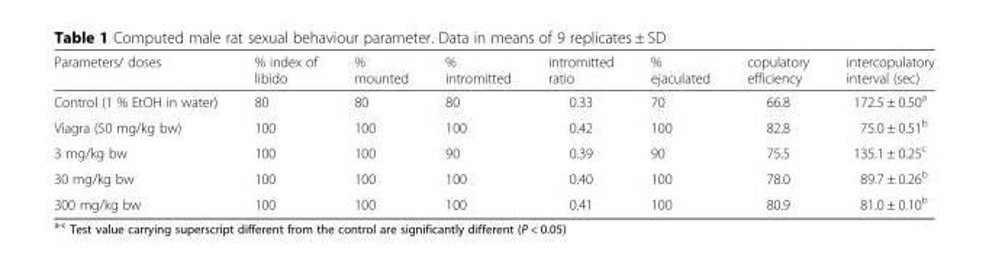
<table><thead><tr><td>Parameters/ doses</td><td>% index of libido</td><td>% mounted</td><td>% intromitted</td><td>intromitted ratio</td><td>% ejaculated</td><td>copulatory efficiency</td><td>intercopulatory interval (sec)</td></tr></thead><tbody><tr><td>Control (1 % EtOH in water)</td><td>80</td><td>80</td><td>80</td><td>0.33</td><td>70</td><td>66.8</td><td>172.5 ± 0.50<sup>a</sup></td></tr><tr><td>Viagra (50 mg/kg bw)</td><td>100</td><td>100</td><td>100</td><td>0.42</td><td>100</td><td>82.8</td><td>75.0 ± 0.51<sup>b</sup></td></tr><tr><td>3 mg/kg bw</td><td>100</td><td>100</td><td>90</td><td>0.39</td><td>90</td><td>75.5</td><td>135.1 ± 0.25<sup>c</sup></td></tr><tr><td>30 mg/kg bw</td><td>100</td><td>100</td><td>100</td><td>0.40</td><td>100</td><td>78.0</td><td>89.7 ± 0.26<sup>b</sup></td></tr><tr><td>300 mg/kg bw</td><td>100</td><td>100</td><td>100</td><td>0.41</td><td>100</td><td>80.9</td><td>81.0 ± 0.10<sup>b</sup></td></tr></tbody></table>